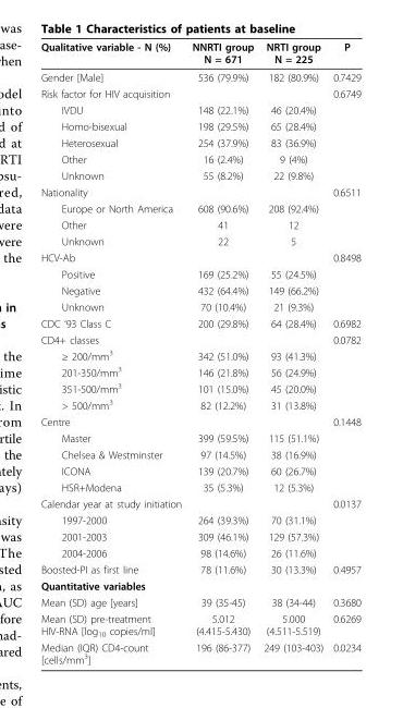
<table><thead><tr><td>Qualitative variable - N (%)</td><td>NNRTI group N = 671</td><td>NRTI group N = 225</td><td>P</td></tr></thead><tbody><tr><td>Gender [Male]</td><td>536 (79.9%)</td><td>182 (80.9%)</td><td>0.7429</td></tr><tr><td>Risk factor for HIV acquisition</td><td></td><td></td><td>0.6749</td></tr><tr><td>IVDU</td><td>148 (22.1%)</td><td>46 (20.4%)</td><td></td></tr><tr><td>Homo-bisexual</td><td>198 (29.5%)</td><td>65 (28.4%)</td><td></td></tr><tr><td>Heterosexual</td><td>254 (37.9%)</td><td>83 (36.9%)</td><td></td></tr><tr><td>Other</td><td>16 (2.4%)</td><td>9 (4%)</td><td></td></tr><tr><td>Unknown</td><td>55 (8.2%)</td><td>22 (9.8%)</td><td></td></tr><tr><td>Nationality</td><td></td><td></td><td>0.6511</td></tr><tr><td>Europe or North America</td><td>608 (90.6%)</td><td>208 (92.4%)</td><td></td></tr><tr><td>Other</td><td>41</td><td>12</td><td></td></tr><tr><td>Unknown</td><td>22</td><td>5</td><td></td></tr><tr><td>HCV-Ab</td><td></td><td></td><td>0.8498</td></tr><tr><td>Positive</td><td>169 (25.2%)</td><td>55 (24.5%)</td><td></td></tr><tr><td>Negative</td><td>432 (64.4%)</td><td>149 (66.2%)</td><td></td></tr><tr><td>Unknown</td><td>70 (10.4%)</td><td>21 (9.3%)</td><td></td></tr><tr><td>CDC ‘93 Class C</td><td>200 (29.8%)</td><td>64 (28.4%)</td><td>0.6982</td></tr><tr><td>CD4+ classes</td><td></td><td></td><td>0.0782</td></tr><tr><td>≥ 200/mm<sup>3</sup></td><td>342 (51.0%)</td><td>93 (41.3%)</td><td></td></tr><tr><td>201-350/mm<sup>3</sup></td><td>146 (21.8%)</td><td>56 (24.9%)</td><td></td></tr><tr><td>351-500/mm<sup>3</sup></td><td>101 (15.0%)</td><td>45 (20.0%)</td><td></td></tr><tr><td>&gt; 500/mm<sup>3</sup></td><td>82 (12.2%)</td><td>31 (13.8%)</td><td></td></tr><tr><td>Centre</td><td></td><td></td><td>0.1448</td></tr><tr><td>Master</td><td>399 (59.5%)</td><td>115 (51.1%)</td><td></td></tr><tr><td>Chelsea &amp; Westminster</td><td>97 (14.5%)</td><td>38 (16.9%)</td><td></td></tr><tr><td>ICONA</td><td>139 (20.7%)</td><td>60 (26.7%)</td><td></td></tr><tr><td>HSR+Modena</td><td>35 (5.3%)</td><td>12 (5.3%)</td><td></td></tr><tr><td>Calendar year at study initiation</td><td></td><td></td><td>0.0137</td></tr><tr><td>1997-2000</td><td>264 (39.3%)</td><td>70 (31.1%)</td><td></td></tr><tr><td>2001-2003</td><td>309 (46.1%)</td><td>129 (57.3%)</td><td></td></tr><tr><td>2004-2006</td><td>98 (14.6%)</td><td>26 (11.6%)</td><td></td></tr><tr><td>Boosted-PI as first line</td><td>78 (11.6%)</td><td>30 (13.3%)</td><td>0.4957</td></tr><tr><td colspan="4">Quantitative variables</td></tr><tr><td>Mean (SD) age [years]</td><td>39 (35-45)</td><td>38 (34-44)</td><td>0.3680</td></tr><tr><td>Mean (SD) pre-treatment HIV-RNA [log<sub>10</sub> copies/ml]</td><td>5.012 (4.415-5.430)</td><td>5.000 (4.511-5.519)</td><td>0.6269</td></tr><tr><td>Median (IQR) CD4-count [cells/mm<sup>3</sup>]</td><td>196 (86-377)</td><td>249 (103-403)</td><td>0.0234</td></tr></tbody></table>